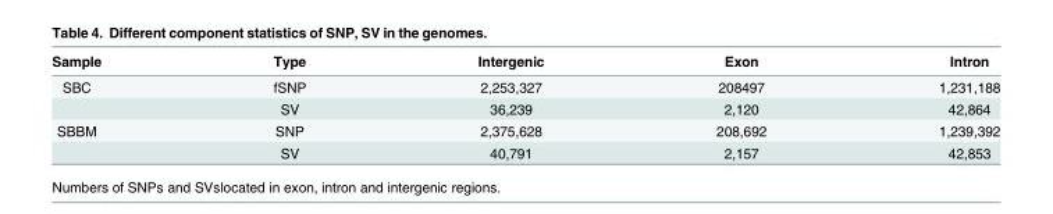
<table><thead><tr><td>Sample</td><td>Type</td><td>Intergenic</td><td>Exon</td><td>Intron</td></tr></thead><tbody><tr><td rowspan="2">SBC</td><td>fSNP</td><td>2,253,327</td><td>208497</td><td>1,231,188</td></tr><tr><td>SV</td><td>36,239</td><td>2,120</td><td>42,864</td></tr><tr><td rowspan="2">SBBM</td><td>SNP</td><td>2,375,628</td><td>208,692</td><td>1,239,392</td></tr><tr><td>SV</td><td>40,791</td><td>2,157</td><td>42,853</td></tr></tbody></table>